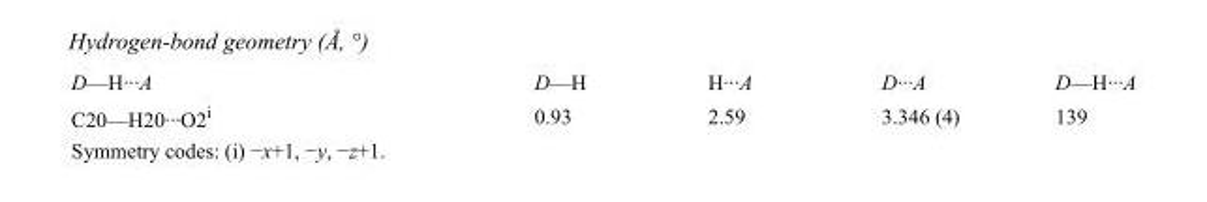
<table><tbody><tr><td>D—H···A</td><td>D—H</td><td>H···A</td><td>D···A</td><td>D—H···A</td></tr><tr><td>C20—H20···O2<sup>i</sup></td><td>0.93</td><td>2.59</td><td>3.346 (4)</td><td>139</td></tr></tbody></table>